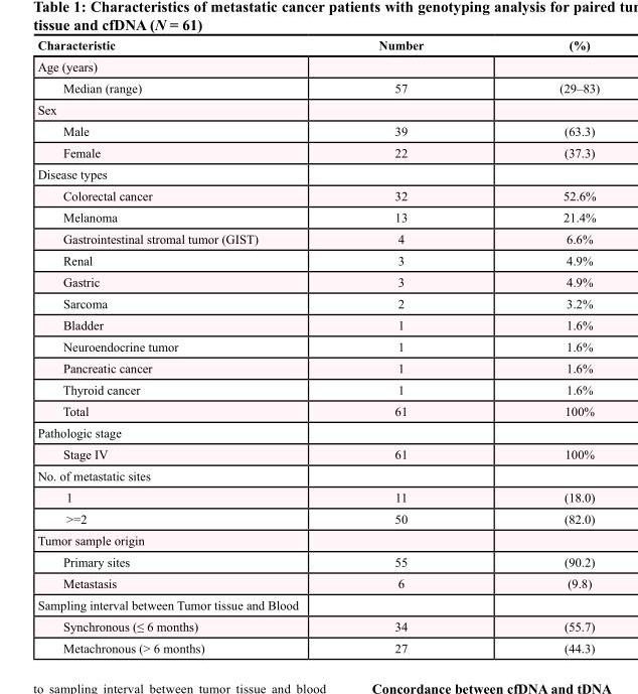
<table><thead><tr><td>Characteristic</td><td>Number</td><td>(%)</td></tr></thead><tbody><tr><td colspan="3">Age (years)</td></tr><tr><td>Median (range)</td><td>57</td><td>(29–83)</td></tr><tr><td colspan="3">Sex</td></tr><tr><td>Male</td><td>39</td><td>(63.3)</td></tr><tr><td>Female</td><td>22</td><td>(37.3)</td></tr><tr><td colspan="3">Disease types</td></tr><tr><td>Colorectal cancer</td><td>32</td><td>52.6%</td></tr><tr><td>Melanoma</td><td>13</td><td>21.4%</td></tr><tr><td>Gastrointestinal stromal tumor (GIST)</td><td>4</td><td>6.6%</td></tr><tr><td>Renal</td><td>3</td><td>4.9%</td></tr><tr><td>Gastric</td><td>3</td><td>4.9%</td></tr><tr><td>Sarcoma</td><td>2</td><td>3.2%</td></tr><tr><td>Bladder</td><td>1</td><td>1.6%</td></tr><tr><td>Neuroendocrine tumor</td><td>1</td><td>1.6%</td></tr><tr><td>Pancreatic cancer</td><td>1</td><td>1.6%</td></tr><tr><td>Thyroid cancer</td><td>1</td><td>1.6%</td></tr><tr><td>Total</td><td>61</td><td>100%</td></tr><tr><td colspan="3">Pathologic stage</td></tr><tr><td>Stage IV</td><td>61</td><td>100%</td></tr><tr><td colspan="3">No. of metastatic sites</td></tr><tr><td>1</td><td>11</td><td>(18.0)</td></tr><tr><td>&gt;=2</td><td>50</td><td>(82.0)</td></tr><tr><td colspan="3">Tumor sample origin</td></tr><tr><td>Primary sites</td><td>55</td><td>(90.2)</td></tr><tr><td>Metastasis</td><td>6</td><td>(9.8)</td></tr><tr><td colspan="3">Sampling interval between Tumor tissue and Blood</td></tr><tr><td>Synchronous (≤ 6 months)</td><td>34</td><td>(55.7)</td></tr><tr><td>Metachronous (&gt; 6 months)</td><td>27</td><td>(44.3)</td></tr></tbody></table>